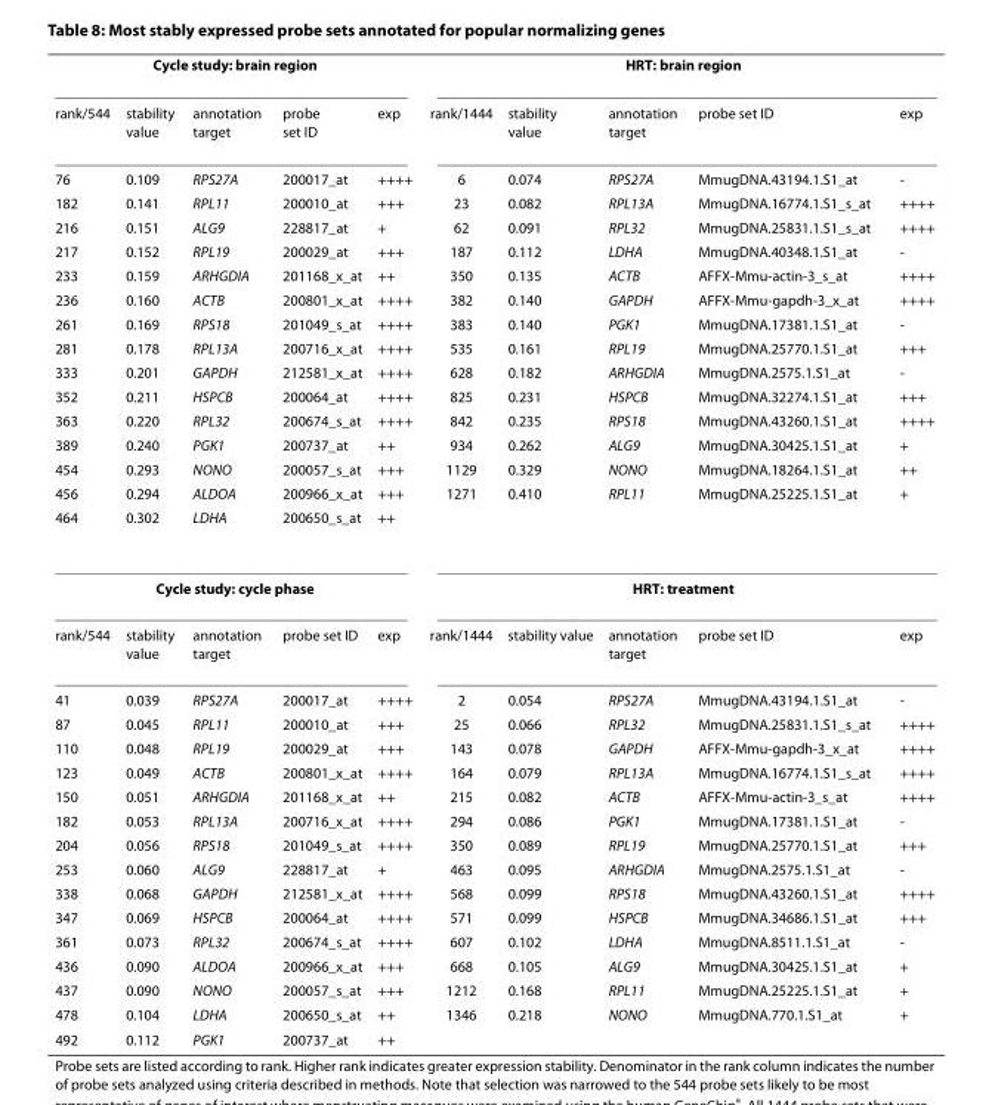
<table><tbody><tr><td colspan="5">Cycle study: brain region</td><td colspan="5">HRT: brain region</td></tr><tr><td>rank/544</td><td>stability value</td><td>annotation target</td><td>probe set ID</td><td>exp</td><td>rank/1444</td><td>stability value</td><td>annotation target</td><td>probe set ID</td><td>exp</td></tr><tr><td>76</td><td>0.109</td><td>RPS27A</td><td>200017_at</td><td>++++</td><td>6</td><td>0.074</td><td>RPS27A</td><td>MmugDNA.43194.1.S1_at</td><td>-</td></tr><tr><td>182</td><td>0.141</td><td>RPL11</td><td>200010_at</td><td>+++</td><td>23</td><td>0.082</td><td>RPL13A</td><td>MmugDNA.16774.1.S1_s_at</td><td>++++</td></tr><tr><td>216</td><td>0.151</td><td>ALG9</td><td>228817_at</td><td>+</td><td>62</td><td>0.091</td><td>RPL32</td><td>MmugDNA.25831.1.S1_s_at</td><td>++++</td></tr><tr><td>217</td><td>0.152</td><td>RPL19</td><td>200029_at</td><td>+++</td><td>187</td><td>0.112</td><td>LDHA</td><td>MmugDNA.40348.1.S1_at</td><td>-</td></tr><tr><td>233</td><td>0.159</td><td>ARHGDIA</td><td>201168_x_at</td><td>++</td><td>350</td><td>0.135</td><td>ACTB</td><td>AFFX-Mmu-actin-3_s_at</td><td>++++</td></tr><tr><td>236</td><td>0.160</td><td>ACTB</td><td>200801_x_at</td><td>++++</td><td>382</td><td>0.140</td><td>GAPDH</td><td>AFFX-Mmu-gapdh-3_x_at</td><td>++++</td></tr><tr><td>261</td><td>0.169</td><td>RPS18</td><td>201049_s_at</td><td>++++</td><td>383</td><td>0.140</td><td>PGK1</td><td>MmugDNA.17381.1.S1_at</td><td>-</td></tr><tr><td>281</td><td>0.178</td><td>RPL13A</td><td>200716_x_at</td><td>++++</td><td>535</td><td>0.161</td><td>RPL19</td><td>MmugDNA.25770.1.S1_at</td><td>+++</td></tr><tr><td>333</td><td>0.201</td><td>GAPDH</td><td>212581_x_at</td><td>++++</td><td>628</td><td>0.182</td><td>ARHGDIA</td><td>MmugDNA.2575.1.S1_at</td><td>-</td></tr><tr><td>352</td><td>0.211</td><td>HSPCB</td><td>200064_at</td><td>++++</td><td>825</td><td>0.231</td><td>HSPCB</td><td>MmugDNA.32274.1.S1_at</td><td>+++</td></tr><tr><td>363</td><td>0.220</td><td>RPL32</td><td>200674_s_at</td><td>++++</td><td>842</td><td>0.235</td><td>RPS18</td><td>MmugDNA.43260.1.S1_at</td><td>++++</td></tr><tr><td>389</td><td>0.240</td><td>PGK1</td><td>200737_at</td><td>++</td><td>934</td><td>0.262</td><td>ALG9</td><td>MmugDNA.30425.1.S1_at</td><td>+</td></tr><tr><td>454</td><td>0.293</td><td>NONO</td><td>200057_s_at</td><td>+++</td><td>1129</td><td>0.329</td><td>NONO</td><td>MmugDNA.18264.1.S1_at</td><td>++</td></tr><tr><td>456</td><td>0.294</td><td>ALDOA</td><td>200966_x_at</td><td>+++</td><td>1271</td><td>0.410</td><td>RPL11</td><td>MmugDNA.25225.1.S1_at</td><td>+</td></tr><tr><td>464</td><td>0.302</td><td>LDHA</td><td>200650_s_at</td><td>++</td><td></td><td></td><td></td><td></td><td></td></tr><tr><td colspan="5">Cycle study: cycle phase</td><td colspan="5">HRT: treatment</td></tr><tr><td>rank/544</td><td>stability value</td><td>annotation target</td><td>probe set ID</td><td>exp</td><td>rank/1444</td><td>stability value</td><td>annotation target</td><td>probe set ID</td><td>exp</td></tr><tr><td>41</td><td>0.039</td><td>RPS27A</td><td>200017_at</td><td>++++</td><td>2</td><td>0.054</td><td>RPS27A</td><td>MmugDNA.43194.1.S1_at</td><td>-</td></tr><tr><td>87</td><td>0.045</td><td>RPL11</td><td>200010_at</td><td>+++</td><td>25</td><td>0.066</td><td>RPL32</td><td>MmugDNA.25831.1.S1_s_at</td><td>++++</td></tr><tr><td>110</td><td>0.048</td><td>RPL19</td><td>200029_at</td><td>+++</td><td>143</td><td>0.078</td><td>GAPDH</td><td>AFFX-Mmu-gapdh-3_x_at</td><td>++++</td></tr><tr><td>123</td><td>0.049</td><td>ACTB</td><td>200801_x_at</td><td>++++</td><td>164</td><td>0.079</td><td>RPL13A</td><td>MmugDNA.16774.1.S1_s_at</td><td>++++</td></tr><tr><td>150</td><td>0.051</td><td>ARHGDIA</td><td>201168_x_at</td><td>++</td><td>215</td><td>0.082</td><td>ACTB</td><td>AFFX-Mmu-actin-3_s_at</td><td>++++</td></tr><tr><td>182</td><td>0.053</td><td>RPL13A</td><td>200716_x_at</td><td>++++</td><td>294</td><td>0.086</td><td>PGK1</td><td>MmugDNA.17381.1.S1_at</td><td>-</td></tr><tr><td>204</td><td>0.056</td><td>RPS18</td><td>201049_s_at</td><td>++++</td><td>350</td><td>0.089</td><td>RPL19</td><td>MmugDNA.25770.1.S1_at</td><td>+++</td></tr><tr><td>253</td><td>0.060</td><td>ALG9</td><td>228817_at</td><td>+</td><td>463</td><td>0.095</td><td>ARHGDIA</td><td>MmugDNA.2575.1.S1_at</td><td>-</td></tr><tr><td>338</td><td>0.068</td><td>GAPDH</td><td>212581_x_at</td><td>++++</td><td>568</td><td>0.099</td><td>RPS18</td><td>MmugDNA.43260.1.S1_at</td><td>++++</td></tr><tr><td>347</td><td>0.069</td><td>HSPCB</td><td>200064_at</td><td>++++</td><td>571</td><td>0.099</td><td>HSPCB</td><td>MmugDNA.34686.1.S1_at</td><td>+++</td></tr><tr><td>361</td><td>0.073</td><td>RPL32</td><td>200674_s_at</td><td>++++</td><td>607</td><td>0.102</td><td>LDHA</td><td>MmugDNA.8511.1.S1_at</td><td>-</td></tr><tr><td>436</td><td>0.090</td><td>ALDOA</td><td>200966_x_at</td><td>+++</td><td>668</td><td>0.105</td><td>ALG9</td><td>MmugDNA.30425.1.S1_at</td><td>+</td></tr><tr><td>437</td><td>0.090</td><td>NONO</td><td>200057_s_at</td><td>+++</td><td>1212</td><td>0.168</td><td>RPL11</td><td>MmugDNA.25225.1.S1_at</td><td>+</td></tr><tr><td>478</td><td>0.104</td><td>LDHA</td><td>200650_s_at</td><td>++</td><td>1346</td><td>0.218</td><td>NONO</td><td>MmugDNA.770.1.S1_at</td><td>+</td></tr><tr><td>492</td><td>0.112</td><td>PGK1</td><td>200737_at</td><td>++</td><td></td><td></td><td></td><td></td><td></td></tr></tbody></table>